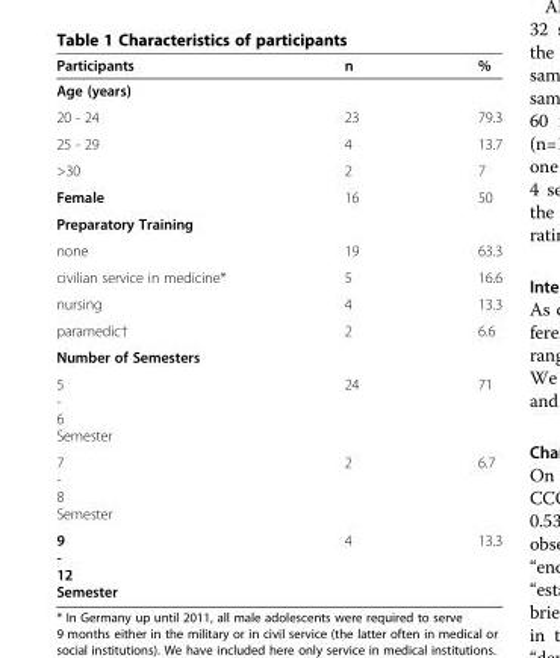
<table><thead><tr><td>Participants</td><td>n</td><td>%</td></tr></thead><tbody><tr><td colspan="3">Age (years)</td></tr><tr><td>20 - 24</td><td>23</td><td>79.3</td></tr><tr><td>25 - 29</td><td>4</td><td>13.7</td></tr><tr><td>&gt;30</td><td>2</td><td>7</td></tr><tr><td>Female</td><td>16</td><td>50</td></tr><tr><td colspan="3">Preparatory Training</td></tr><tr><td>none</td><td>19</td><td>63.3</td></tr><tr><td>civilian service in medicine*</td><td>5</td><td>16.6</td></tr><tr><td>nursing</td><td>4</td><td>13.3</td></tr><tr><td>paramedic†</td><td>2</td><td>6.6</td></tr><tr><td colspan="3">Number of Semesters</td></tr><tr><td>5 - 6 Semester</td><td>24</td><td>71</td></tr><tr><td>7 - 8 Semester</td><td>2</td><td>6.7</td></tr><tr><td>9 - 12 Semester</td><td>4</td><td>13.3</td></tr></tbody></table>